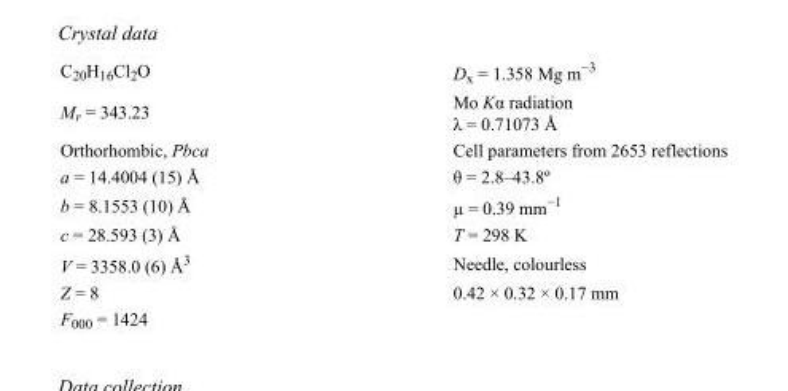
<table><tbody><tr><td>C<sub>20</sub>H<sub>16</sub>Cl<sub>2</sub>O</td><td>D<sub>x</sub> = 1.358 Mg m<sup>−3</sup></td></tr><tr><td>M<sub>r</sub> = 343.23</td><td>Mo Kα radiation λ = 0.71073 Å</td></tr><tr><td>Orthorhombic, Pbca</td><td>Cell parameters from 2653 reflections</td></tr><tr><td>a = 14.4004 (15) Å</td><td>θ = 2.8–43.8º</td></tr><tr><td>b = 8.1553 (10) Å</td><td>µ = 0.39 mm<sup>−1</sup></td></tr><tr><td>c = 28.593 (3) Å</td><td>T = 298 K</td></tr><tr><td>V = 3358.0 (6) Å<sup>3</sup></td><td>Needle, colourless</td></tr><tr><td>Z = 8</td><td>0.42 × 0.32 × 0.17 mm</td></tr><tr><td>F000 = 1424</td><td></td></tr></tbody></table>